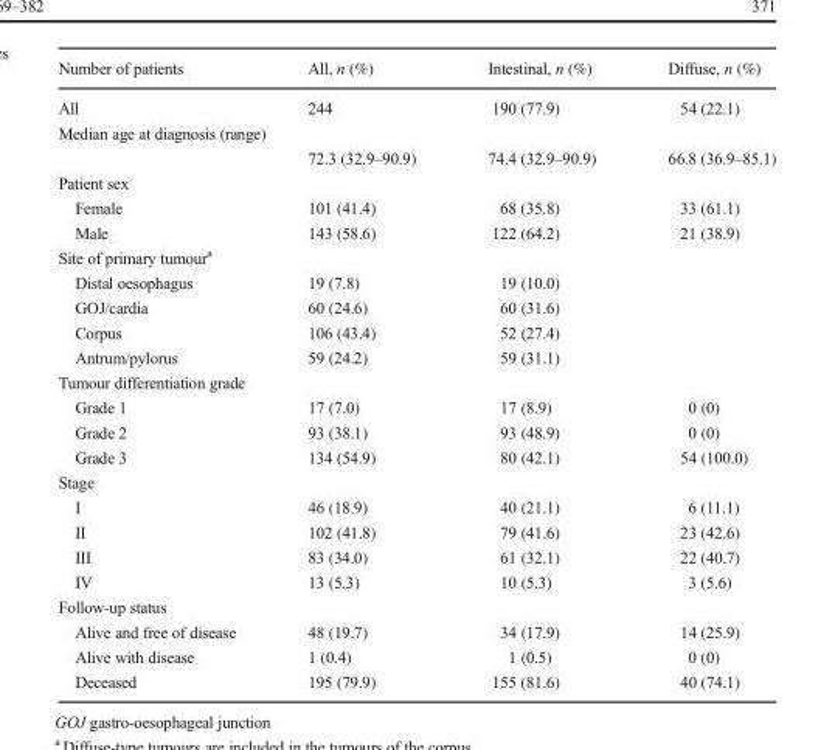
<table><thead><tr><td>Number of patients</td><td>All, n (%)</td><td>Intestinal, n (%)</td><td>Diffuse, n (%)</td></tr></thead><tbody><tr><td>All</td><td>244</td><td>190 (77.9)</td><td>54 (22.1)</td></tr><tr><td colspan="4">Median age at diagnosis (range)</td></tr><tr><td></td><td>72.3 (32.9–90.9)</td><td>74.4 (32.9–90.9)</td><td>66.8 (36.9–85.1)</td></tr><tr><td colspan="4">Patient sex</td></tr><tr><td>Female</td><td>101 (41.4)</td><td>68 (35.8)</td><td>33 (61.1)</td></tr><tr><td>Male</td><td>143 (58.6)</td><td>122 (64.2)</td><td>21 (38.9)</td></tr><tr><td colspan="4">Site of primary tumour<sup>a</sup></td></tr><tr><td>Distal oesophagus</td><td>19 (7.8)</td><td>19 (10.0)</td><td></td></tr><tr><td>GOJ/cardia</td><td>60 (24.6)</td><td>60 (31.6)</td><td></td></tr><tr><td>Corpus</td><td>106 (43.4)</td><td>52 (27.4)</td><td></td></tr><tr><td>Antrum/pylorus</td><td>59 (24.2)</td><td>59 (31.1)</td><td></td></tr><tr><td colspan="4">Tumour differentiation grade</td></tr><tr><td>Grade 1</td><td>17 (7.0)</td><td>17 (8.9)</td><td>0 (0)</td></tr><tr><td>Grade 2</td><td>93 (38.1)</td><td>93 (48.9)</td><td>0 (0)</td></tr><tr><td>Grade 3</td><td>134 (54.9)</td><td>80 (42.1)</td><td>54 (100.0)</td></tr><tr><td colspan="4">Stage</td></tr><tr><td>I</td><td>46 (18.9)</td><td>40 (21.1)</td><td>6 (11.1)</td></tr><tr><td>II</td><td>102 (41.8)</td><td>79 (41.6)</td><td>23 (42.6)</td></tr><tr><td>III</td><td>83 (34.0)</td><td>61 (32.1)</td><td>22 (40.7)</td></tr><tr><td>IV</td><td>13 (5.3)</td><td>10 (5.3)</td><td>3 (5.6)</td></tr><tr><td colspan="4">Follow-up status</td></tr><tr><td>Alive and free of disease</td><td>48 (19.7)</td><td>34 (17.9)</td><td>14 (25.9)</td></tr><tr><td>Alive with disease</td><td>1 (0.4)</td><td>1 (0.5)</td><td>0 (0)</td></tr><tr><td>Deceased</td><td>195 (79.9)</td><td>155 (81.6)</td><td>40 (74.1)</td></tr></tbody></table>